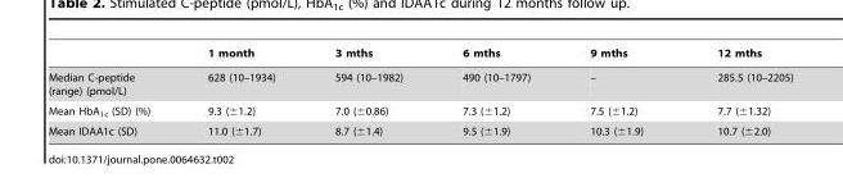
<table><thead><tr><td></td><td>1 month</td><td>3 mths</td><td>6 mths</td><td>9 mths</td><td>12 mths</td></tr></thead><tbody><tr><td>Median C-peptide (range) (pmol/L)</td><td>628 (10–1934)</td><td>594 (10–1982)</td><td>490 (10–1797)</td><td>–</td><td>285.5 (10–2205)</td></tr><tr><td>Mean HbA<sub>1c</sub> (SD) (%)</td><td>9.3 (±1.2)</td><td>7.0 (±0.86)</td><td>7.3 (±1.2)</td><td>7.5 (±1.2)</td><td>7.7 (±1.32)</td></tr><tr><td>Mean IDAA1c (SD)</td><td>11.0 (±1.7)</td><td>8.7 (±1.4)</td><td>9.5 (±1.9)</td><td>10.3 (±1.9)</td><td>10.7 (±2.0)</td></tr></tbody></table>